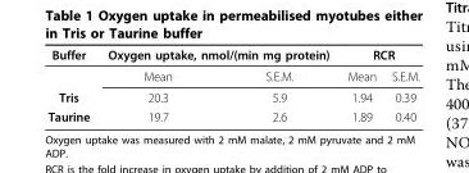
<table><thead><tr><td rowspan="2">Buffer</td><td colspan="2">Oxygen uptake, nmol/(min mg protein)</td><td colspan="2">RCR</td></tr><tr><td>Mean</td><td>S.E.M.</td><td>Mean</td><td>S.E.M.</td></tr></thead><tbody><tr><td>Tris</td><td>20.3</td><td>5.9</td><td>1.94</td><td>0.39</td></tr><tr><td>Taurine</td><td>19.7</td><td>2.6</td><td>1.89</td><td>0.40</td></tr></tbody></table>